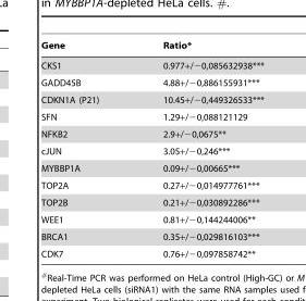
<table><thead><tr><td>Gene</td><td>Ratio*</td></tr></thead><tbody><tr><td>CKS1</td><td>0.977+/−0,085632938***</td></tr><tr><td>GADD45B</td><td>4.88+/−0,886155931***</td></tr><tr><td>CDKN1A (P21)</td><td>10.45+/−0,449326533***</td></tr><tr><td>SFN</td><td>1.29+/−0,088121129</td></tr><tr><td>NFKB2</td><td>2.9+/−0,0675**</td></tr><tr><td>cJUN</td><td>3.05+/−0,246***</td></tr><tr><td>MYBBP1A</td><td>0.09+/−0,00665***</td></tr><tr><td>TOP2A</td><td>0.27+/−0,014977761***</td></tr><tr><td>TOP2B</td><td>0.21+/−0,030892286***</td></tr><tr><td>WEE1</td><td>0.81+/−0,144244006**</td></tr><tr><td>BRCA1</td><td>0.35+/−0,029816103***</td></tr><tr><td>CDK7</td><td>0.76+/−0,097858742**</td></tr></tbody></table>